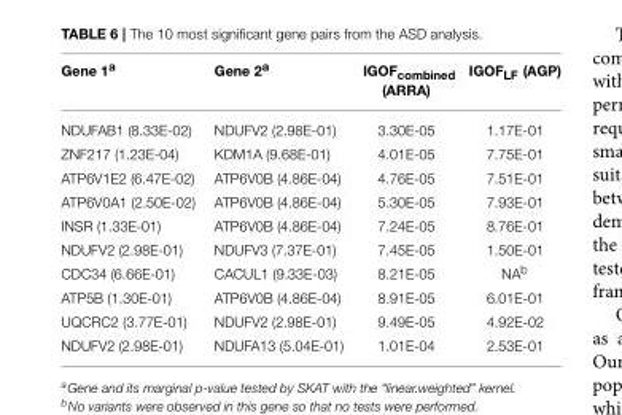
<table><thead><tr><td>Gene 1<sup>a</sup></td><td>Gene 2<sup>a</sup></td><td>IGOF<sub>combined</sub> (ARRA)</td><td>IGOF<sub>LF</sub> (AGP)</td></tr></thead><tbody><tr><td>NDUFAB1 (8.33E-02)</td><td>NDUFV2 (2.98E-01)</td><td>3.30E-05</td><td>1.17E-01</td></tr><tr><td>ZNF217 (1.23E-04)</td><td>KDM1A (9.68E-01)</td><td>4.01E-05</td><td>7.75E-01</td></tr><tr><td>ATP6V1E2 (6.47E-02)</td><td>ATP6V0B (4.86E-04)</td><td>4.76E-05</td><td>7.51E-01</td></tr><tr><td>ATP6V0A1 (2.50E-02)</td><td>ATP6V0B (4.86E-04)</td><td>5.30E-05</td><td>7.93E-01</td></tr><tr><td>INSR (1.33E-01)</td><td>ATP6V0B (4.86E-04)</td><td>7.24E-05</td><td>8.76E-01</td></tr><tr><td>NDUFV2 (2.98E-01)</td><td>NDUFV3 (7.37E-01)</td><td>7.45E-05</td><td>1.50E-01</td></tr><tr><td>CDC34 (6.66E-01)</td><td>CACUL1 (9.33E-03)</td><td>8.21E-05</td><td>NA<sup>b</sup></td></tr><tr><td>ATP5B (1.30E-01)</td><td>ATP6V0B (4.86E-04)</td><td>8.91E-05</td><td>6.01E-01</td></tr><tr><td>UQCRC2 (3.77E-01)</td><td>NDUFV2 (2.98E-01)</td><td>9.49E-05</td><td>4.92E-02</td></tr><tr><td>NDUFV2 (2.98E-01)</td><td>NDUFA13 (5.04E-01)</td><td>1.01E-04</td><td>2.53E-01</td></tr></tbody></table>